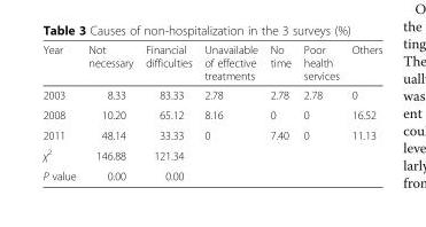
<table><thead><tr><td>Year</td><td>Not necessary</td><td>Financial difficulties</td><td>Unavailable of effective treatments</td><td>No time</td><td>Poor health services</td><td>Others</td></tr></thead><tbody><tr><td>2003</td><td>8.33</td><td>83.33</td><td>2.78</td><td>2.78</td><td>2.78</td><td>0</td></tr><tr><td>2008</td><td>10.20</td><td>65.12</td><td>8.16</td><td>0</td><td>0</td><td>16.52</td></tr><tr><td>2011</td><td>48.14</td><td>33.33</td><td>0</td><td>7.40</td><td>0</td><td>11.13</td></tr><tr><td>χ<sup>2</sup></td><td>146.88</td><td>121.34</td><td></td><td></td><td></td><td></td></tr><tr><td>P value</td><td>0.00</td><td>0.00</td><td></td><td></td><td></td><td></td></tr></tbody></table>